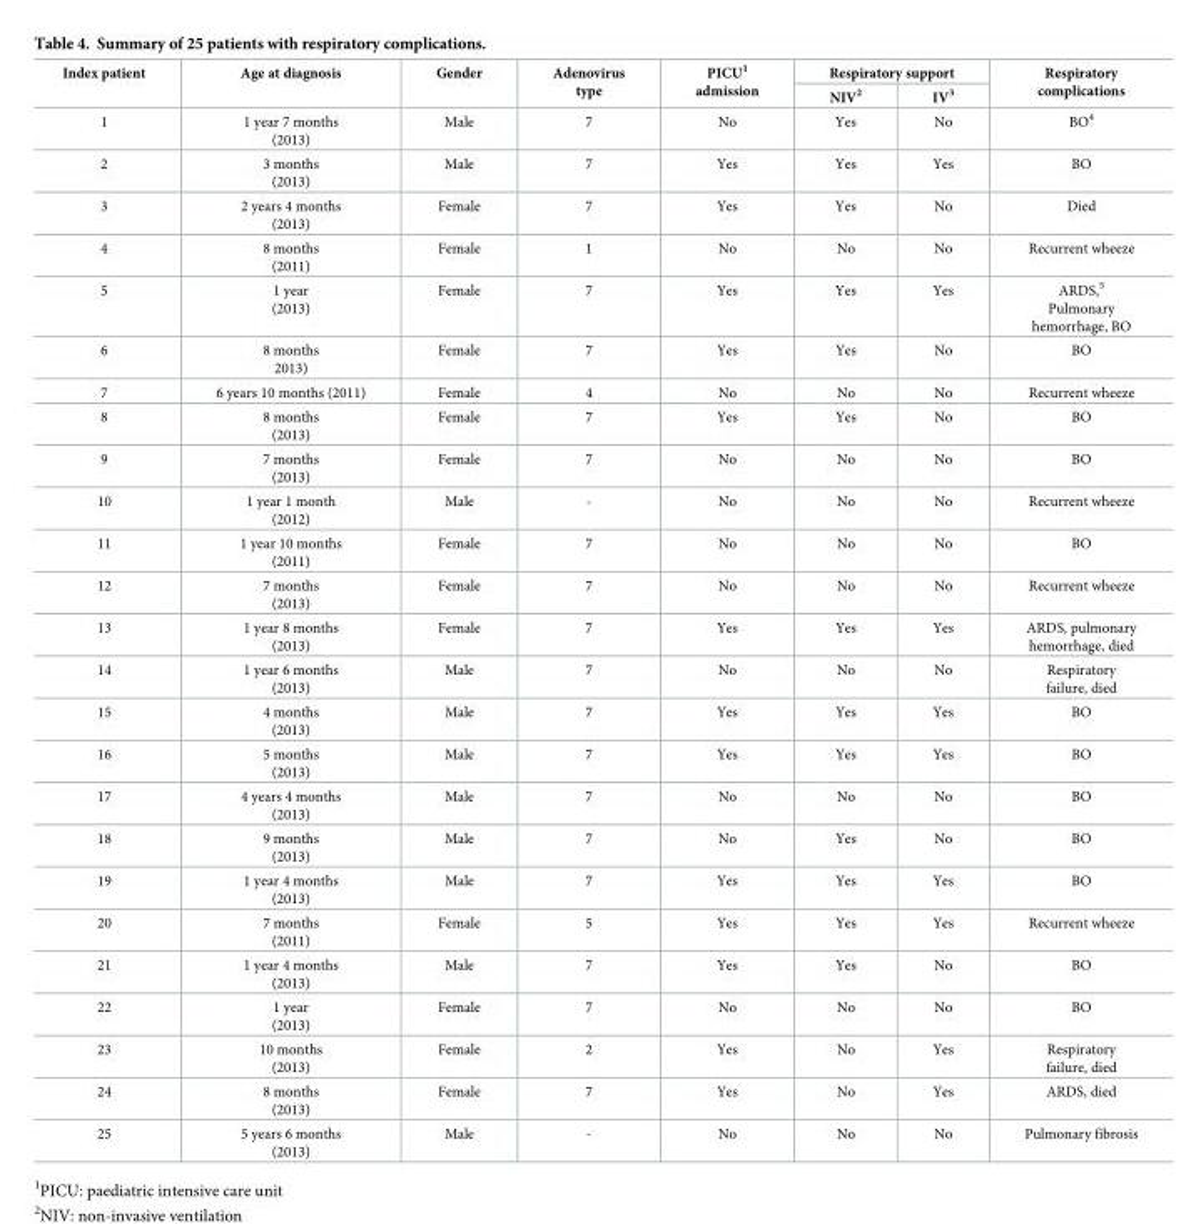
<table><thead><tr><td rowspan="2">Index patient</td><td rowspan="2">Age at diagnosis</td><td rowspan="2">Gender</td><td rowspan="2">Adenovirus type</td><td rowspan="2">PICU<sup>1</sup> admission</td><td colspan="2">Respiratory support</td><td rowspan="2">Respiratory complications</td></tr><tr><td>NIV<sup>2</sup></td><td>IV<sup>3</sup></td></tr></thead><tbody><tr><td>1</td><td>1 year 7 months (2013)</td><td>Male</td><td>7</td><td>No</td><td>Yes</td><td>No</td><td>BO<sup>4</sup></td></tr><tr><td>2</td><td>3 months (2013)</td><td>Male</td><td>7</td><td>Yes</td><td>Yes</td><td>Yes</td><td>BO</td></tr><tr><td>3</td><td>2 years 4 months (2013)</td><td>Female</td><td>7</td><td>Yes</td><td>Yes</td><td>No</td><td>Died</td></tr><tr><td>4</td><td>8 months (2011)</td><td>Female</td><td>1</td><td>No</td><td>No</td><td>No</td><td>Recurrent wheeze</td></tr><tr><td>5</td><td>1 year (2013)</td><td>Female</td><td>7</td><td>Yes</td><td>Yes</td><td>Yes</td><td>ARDS,<sup>5</sup> Pulmonary hemorrhage, BO</td></tr><tr><td>6</td><td>8 months 2013)</td><td>Female</td><td>7</td><td>Yes</td><td>Yes</td><td>No</td><td>BO</td></tr><tr><td>7</td><td>6 years 10 months (2011)</td><td>Female</td><td>4</td><td>No</td><td>No</td><td>No</td><td>Recurrent wheeze</td></tr><tr><td>8</td><td>8 months (2013)</td><td>Female</td><td>7</td><td>Yes</td><td>Yes</td><td>No</td><td>BO</td></tr><tr><td>9</td><td>7 months (2013)</td><td>Female</td><td>7</td><td>No</td><td>No</td><td>No</td><td>BO</td></tr><tr><td>10</td><td>1 year 1 month (2012)</td><td>Male</td><td>-</td><td>No</td><td>No</td><td>No</td><td>Recurrent wheeze</td></tr><tr><td>11</td><td>1 year 10 months (2011)</td><td>Female</td><td>7</td><td>No</td><td>No</td><td>No</td><td>BO</td></tr><tr><td>12</td><td>7 months (2013)</td><td>Female</td><td>7</td><td>No</td><td>No</td><td>No</td><td>Recurrent wheeze</td></tr><tr><td>13</td><td>1 year 8 months (2013)</td><td>Female</td><td>7</td><td>Yes</td><td>Yes</td><td>Yes</td><td>ARDS, pulmonary hemorrhage, died</td></tr><tr><td>14</td><td>1 year 6 months (2013)</td><td>Male</td><td>7</td><td>No</td><td>No</td><td>No</td><td>Respiratory failure, died</td></tr><tr><td>15</td><td>4 months (2013)</td><td>Male</td><td>7</td><td>Yes</td><td>Yes</td><td>Yes</td><td>BO</td></tr><tr><td>16</td><td>5 months (2013)</td><td>Male</td><td>7</td><td>Yes</td><td>Yes</td><td>Yes</td><td>BO</td></tr><tr><td>17</td><td>4 years 4 months (2013)</td><td>Male</td><td>7</td><td>No</td><td>No</td><td>No</td><td>BO</td></tr><tr><td>18</td><td>9 months (2013)</td><td>Male</td><td>7</td><td>No</td><td>Yes</td><td>No</td><td>BO</td></tr><tr><td>19</td><td>1 year 4 months (2013)</td><td>Male</td><td>7</td><td>Yes</td><td>Yes</td><td>Yes</td><td>BO</td></tr><tr><td>20</td><td>7 months (2011)</td><td>Female</td><td>5</td><td>Yes</td><td>Yes</td><td>Yes</td><td>Recurrent wheeze</td></tr><tr><td>21</td><td>1 year 4 months (2013)</td><td>Male</td><td>7</td><td>Yes</td><td>Yes</td><td>No</td><td>BO</td></tr><tr><td>22</td><td>1 year (2013)</td><td>Female</td><td>7</td><td>No</td><td>No</td><td>No</td><td>BO</td></tr><tr><td>23</td><td>10 months (2013)</td><td>Female</td><td>2</td><td>Yes</td><td>No</td><td>Yes</td><td>Respiratory failure, died</td></tr><tr><td>24</td><td>8 months (2013)</td><td>Female</td><td>7</td><td>Yes</td><td>No</td><td>Yes</td><td>ARDS, died</td></tr><tr><td>25</td><td>5 years 6 months (2013)</td><td>Male</td><td>-</td><td>No</td><td>No</td><td>No</td><td>Pulmonary fibrosis</td></tr></tbody></table>